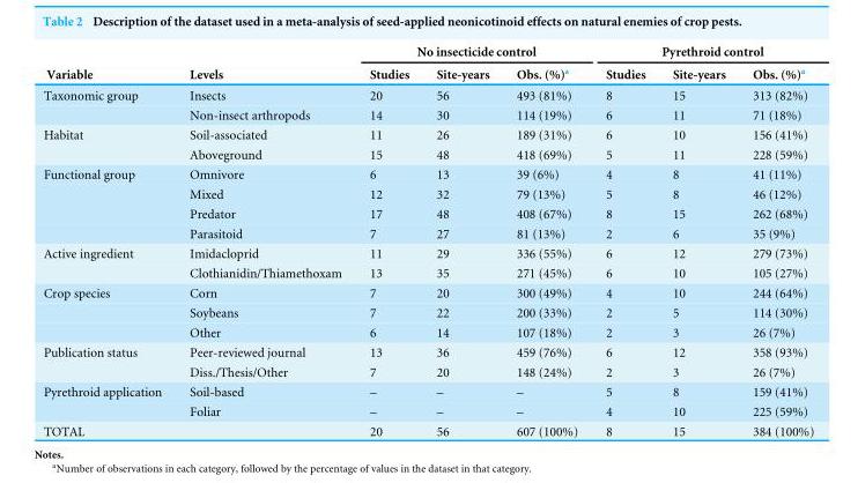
<table><thead><tr><td rowspan="2">Variable</td><td rowspan="2">Levels</td><td colspan="3">No insecticide control</td><td colspan="3">Pyrethroid control</td></tr><tr><td>Studies</td><td>Site-years</td><td>Obs. (%)<sup>a</sup></td><td>Studies</td><td>Site-years</td><td>Obs. (%)<sup>a</sup></td></tr></thead><tbody><tr><td rowspan="2">Taxonomic group</td><td>Insects</td><td>20</td><td>56</td><td>493 (81%)</td><td>8</td><td>15</td><td>313 (82%)</td></tr><tr><td>Non-insect arthropods</td><td>14</td><td>30</td><td>114 (19%)</td><td>6</td><td>11</td><td>71 (18%)</td></tr><tr><td rowspan="2">Habitat</td><td>Soil-associated</td><td>11</td><td>26</td><td>189 (31%)</td><td>6</td><td>10</td><td>156 (41%)</td></tr><tr><td>Aboveground</td><td>15</td><td>48</td><td>418 (69%)</td><td>5</td><td>11</td><td>228 (59%)</td></tr><tr><td rowspan="4">Functional group</td><td>Omnivore</td><td>6</td><td>13</td><td>39 (6%)</td><td>4</td><td>8</td><td>41 (11%)</td></tr><tr><td>Mixed</td><td>12</td><td>32</td><td>79 (13%)</td><td>5</td><td>8</td><td>46 (12%)</td></tr><tr><td>Predator</td><td>17</td><td>48</td><td>408 (67%)</td><td>8</td><td>15</td><td>262 (68%)</td></tr><tr><td>Parasitoid</td><td>7</td><td>27</td><td>81 (13%)</td><td>2</td><td>6</td><td>35 (9%)</td></tr><tr><td rowspan="2">Active ingredient</td><td>Imidacloprid</td><td>11</td><td>29</td><td>336 (55%)</td><td>6</td><td>12</td><td>279 (73%)</td></tr><tr><td>Clothianidin/Thiamethoxam</td><td>13</td><td>35</td><td>271 (45%)</td><td>6</td><td>10</td><td>105 (27%)</td></tr><tr><td rowspan="3">Crop species</td><td>Corn</td><td>7</td><td>20</td><td>300 (49%)</td><td>4</td><td>10</td><td>244 (64%)</td></tr><tr><td>Soybeans</td><td>7</td><td>22</td><td>200 (33%)</td><td>2</td><td>5</td><td>114 (30%)</td></tr><tr><td>Other</td><td>6</td><td>14</td><td>107 (18%)</td><td>2</td><td>3</td><td>26 (7%)</td></tr><tr><td rowspan="2">Publication status</td><td>Peer-reviewed journal</td><td>13</td><td>36</td><td>459 (76%)</td><td>6</td><td>12</td><td>358 (93%)</td></tr><tr><td>Diss./Thesis/Other</td><td>7</td><td>20</td><td>148 (24%)</td><td>2</td><td>3</td><td>26 (7%)</td></tr><tr><td rowspan="2">Pyrethroid application</td><td>Soil-based</td><td>–</td><td>–</td><td>–</td><td>5</td><td>8</td><td>159 (41%)</td></tr><tr><td>Foliar</td><td>–</td><td>–</td><td>–</td><td>4</td><td>10</td><td>225 (59%)</td></tr><tr><td>TOTAL</td><td></td><td>20</td><td>56</td><td>607 (100%)</td><td>8</td><td>15</td><td>384 (100%)</td></tr></tbody></table>